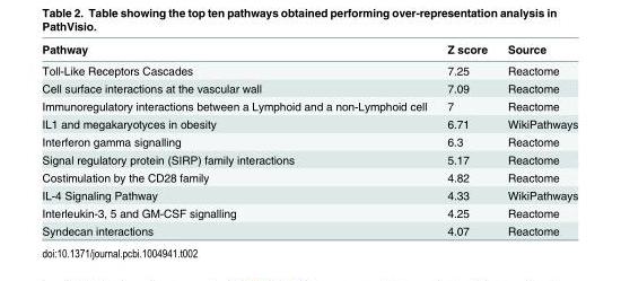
<table><thead><tr><td>Pathway</td><td>Z score</td><td>Source</td></tr></thead><tbody><tr><td>Toll-Like Receptors Cascades</td><td>7.25</td><td>Reactome</td></tr><tr><td>Cell surface interactions at the vascular wall</td><td>7.09</td><td>Reactome</td></tr><tr><td>Immunoregulatory interactions between a Lymphoid and a non-Lymphoid cell</td><td>7</td><td>Reactome</td></tr><tr><td>IL1 and megakaryotyces in obesity</td><td>6.71</td><td>WikiPathways</td></tr><tr><td>Interferon gamma signalling</td><td>6.3</td><td>Reactome</td></tr><tr><td>Signal regulatory protein (SIRP) family interactions</td><td>5.17</td><td>Reactome</td></tr><tr><td>Costimulation by the CD28 family</td><td>4.82</td><td>Reactome</td></tr><tr><td>IL-4 Signaling Pathway</td><td>4.33</td><td>WikiPathways</td></tr><tr><td>Interleukin-3, 5 and GM-CSF signalling</td><td>4.25</td><td>Reactome</td></tr><tr><td>Syndecan interactions</td><td>4.07</td><td>Reactome</td></tr></tbody></table>